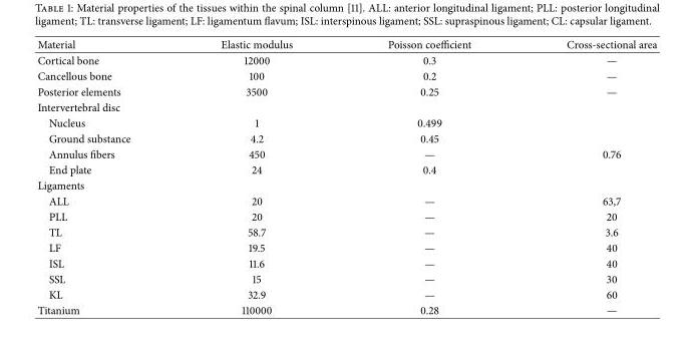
<table><thead><tr><td>Material</td><td>Elastic modulus</td><td>Poisson coefficient</td><td>Cross-sectional area</td></tr></thead><tbody><tr><td>Cortical bone</td><td>12000</td><td>0.3</td><td>—</td></tr><tr><td>Cancellous bone</td><td>100</td><td>0.2</td><td>—</td></tr><tr><td>Posterior elements</td><td>3500</td><td>0.25</td><td>—</td></tr><tr><td colspan="4">Intervertebral disc</td></tr><tr><td>Nucleus</td><td>1</td><td>0.499</td><td></td></tr><tr><td>Ground substance</td><td>4.2</td><td>0.45</td><td></td></tr><tr><td>Annulus fibers</td><td>450</td><td>—</td><td>0.76</td></tr><tr><td>End plate</td><td>24</td><td>0.4</td><td></td></tr><tr><td colspan="4">Ligaments</td></tr><tr><td>ALL</td><td>20</td><td>—</td><td>63,7</td></tr><tr><td>PLL</td><td>20</td><td>—</td><td>20</td></tr><tr><td>TL</td><td>58.7</td><td>—</td><td>3.6</td></tr><tr><td>LF</td><td>19.5</td><td>—</td><td>40</td></tr><tr><td>ISL</td><td>11.6</td><td>—</td><td>40</td></tr><tr><td>SSL</td><td>15</td><td>—</td><td>30</td></tr><tr><td>KL</td><td>32.9</td><td>—</td><td>60</td></tr><tr><td>Titanium</td><td>110000</td><td>0.28</td><td>—</td></tr></tbody></table>